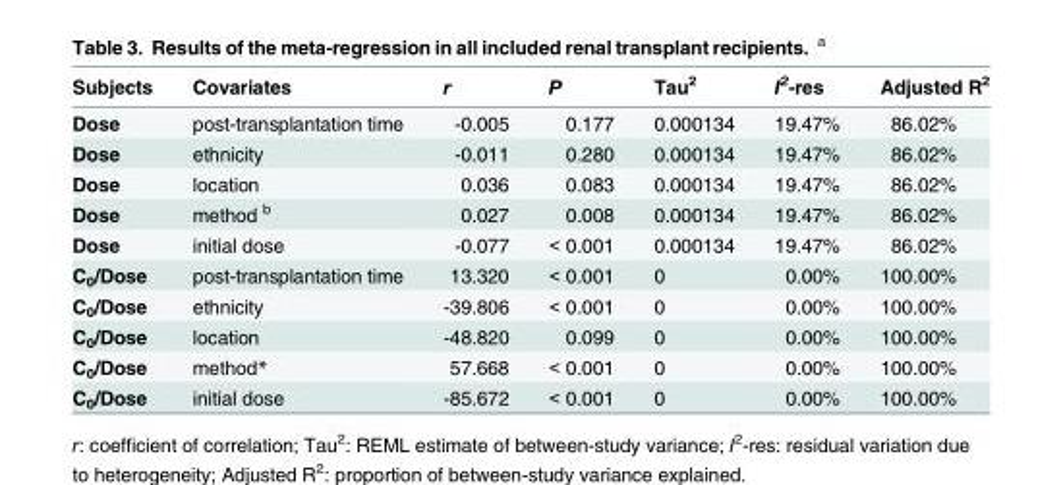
<table><thead><tr><td>Subjects</td><td>Covariates</td><td>r</td><td>P</td><td>Tau<sup>2</sup></td><td>I<sup>2</sup>-res</td><td>Adjusted R<sup>2</sup></td></tr></thead><tbody><tr><td>Dose</td><td>post-transplantation time</td><td>-0.005</td><td>0.177</td><td>0.000134</td><td>19.47%</td><td>86.02%</td></tr><tr><td>Dose</td><td>ethnicity</td><td>-0.011</td><td>0.280</td><td>0.000134</td><td>19.47%</td><td>86.02%</td></tr><tr><td>Dose</td><td>location</td><td>0.036</td><td>0.083</td><td>0.000134</td><td>19.47%</td><td>86.02%</td></tr><tr><td>Dose</td><td>method <sup>b</sup></td><td>0.027</td><td>0.008</td><td>0.000134</td><td>19.47%</td><td>86.02%</td></tr><tr><td>Dose</td><td>initial dose</td><td>-0.077</td><td>&lt; 0.001</td><td>0.000134</td><td>19.47%</td><td>86.02%</td></tr><tr><td>C<sub>0</sub>/Dose</td><td>post-transplantation time</td><td>13.320</td><td>&lt; 0.001</td><td>0</td><td>0.00%</td><td>100.00%</td></tr><tr><td>C<sub>0</sub>/Dose</td><td>ethnicity</td><td>-39.806</td><td>&lt; 0.001</td><td>0</td><td>0.00%</td><td>100.00%</td></tr><tr><td>C<sub>0</sub>/Dose</td><td>location</td><td>-48.820</td><td>0.099</td><td>0</td><td>0.00%</td><td>100.00%</td></tr><tr><td>C<sub>0</sub>/Dose</td><td>method*</td><td>57.668</td><td>&lt; 0.001</td><td>0</td><td>0.00%</td><td>100.00%</td></tr><tr><td>C<sub>0</sub>/Dose</td><td>initial dose</td><td>-85.672</td><td>&lt; 0.001</td><td>0</td><td>0.00%</td><td>100.00%</td></tr></tbody></table>